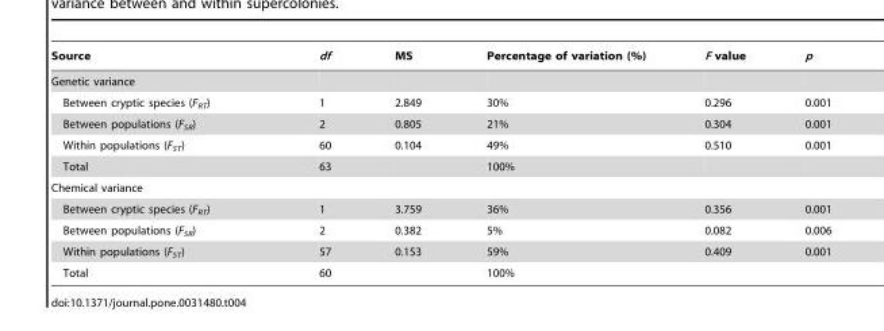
<table><thead><tr><td>Source</td><td>df</td><td>MS</td><td>Percentage of variation (%)</td><td>F value</td><td>p</td></tr></thead><tbody><tr><td colspan="6">Genetic variance</td></tr><tr><td>Between cryptic species (F<sub>RT</sub>)</td><td>1</td><td>2.849</td><td>30%</td><td>0.296</td><td>0.001</td></tr><tr><td>Between populations (F<sub>SR</sub>)</td><td>2</td><td>0.805</td><td>21%</td><td>0.304</td><td>0.001</td></tr><tr><td>Within populations (F<sub>ST</sub>)</td><td>60</td><td>0.104</td><td>49%</td><td>0.510</td><td>0.001</td></tr><tr><td>Total</td><td>63</td><td></td><td>100%</td><td></td><td></td></tr><tr><td colspan="6">Chemical variance</td></tr><tr><td>Between cryptic species (F<sub>RT</sub>)</td><td>1</td><td>3.759</td><td>36%</td><td>0.356</td><td>0.001</td></tr><tr><td>Between populations (F<sub>SR</sub>)</td><td>2</td><td>0.382</td><td>5%</td><td>0.082</td><td>0.006</td></tr><tr><td>Within populations (F<sub>ST</sub>)</td><td>57</td><td>0.153</td><td>59%</td><td>0.409</td><td>0.001</td></tr><tr><td>Total</td><td>60</td><td></td><td>100%</td><td></td><td></td></tr></tbody></table>